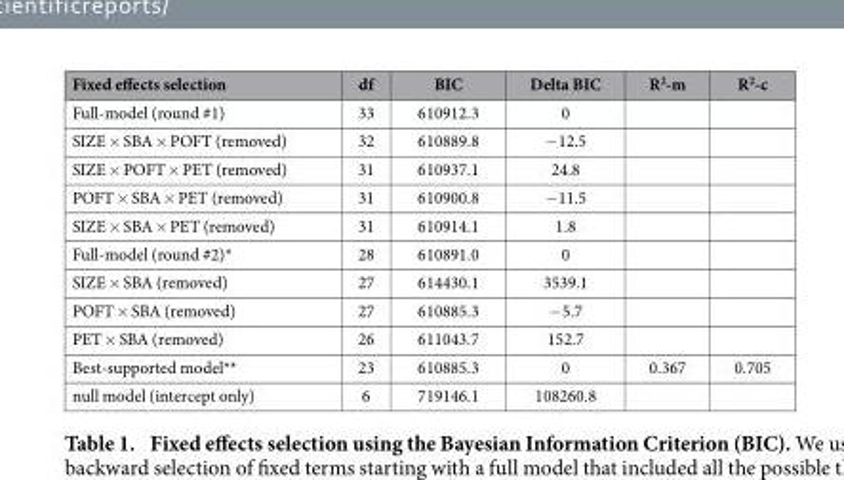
<table><thead><tr><td>Fixed effects selection</td><td>df</td><td>BIC</td><td>Delta BIC</td><td>R<sup>2</sup>-m</td><td>R<sup>2</sup>-c</td></tr></thead><tbody><tr><td>Full-model (round #1)</td><td>33</td><td>610912.3</td><td>0</td><td></td><td></td></tr><tr><td>SIZE × SBA × POFT (removed)</td><td>32</td><td>610889.8</td><td>− 12.5</td><td></td><td></td></tr><tr><td>SIZE × POFT × PET (removed)</td><td>31</td><td>610937.1</td><td>24.8</td><td></td><td></td></tr><tr><td>POFT × SBA × PET (removed)</td><td>31</td><td>610900.8</td><td>− 11.5</td><td></td><td></td></tr><tr><td>SIZE × SBA × PET (removed)</td><td>31</td><td>610914.1</td><td>1.8</td><td></td><td></td></tr><tr><td>Full-model (round #2)*</td><td>28</td><td>610891.0</td><td>0</td><td></td><td></td></tr><tr><td>SIZE × SBA (removed)</td><td>27</td><td>614430.1</td><td>3539.1</td><td></td><td></td></tr><tr><td>POFT × SBA (removed)</td><td>27</td><td>610885.3</td><td>− 5.7</td><td></td><td></td></tr><tr><td>PET × SBA (removed)</td><td>26</td><td>611043.7</td><td>152.7</td><td></td><td></td></tr><tr><td>Best-supported model**</td><td>23</td><td>610885.3</td><td>0</td><td>0.367</td><td>0.705</td></tr><tr><td>null model (intercept only)</td><td>6</td><td>719146.1</td><td>108260.8</td><td></td><td></td></tr></tbody></table>